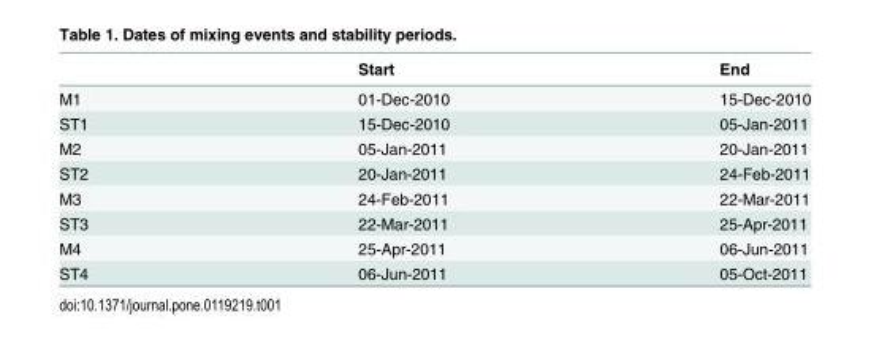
<table><thead><tr><td></td><td>Start</td><td>End</td></tr></thead><tbody><tr><td>M1</td><td>01-Dec-2010</td><td>15-Dec-2010</td></tr><tr><td>ST1</td><td>15-Dec-2010</td><td>05-Jan-2011</td></tr><tr><td>M2</td><td>05-Jan-2011</td><td>20-Jan-2011</td></tr><tr><td>ST2</td><td>20-Jan-2011</td><td>24-Feb-2011</td></tr><tr><td>M3</td><td>24-Feb-2011</td><td>22-Mar-2011</td></tr><tr><td>ST3</td><td>22-Mar-2011</td><td>25-Apr-2011</td></tr><tr><td>M4</td><td>25-Apr-2011</td><td>06-Jun-2011</td></tr><tr><td>ST4</td><td>06-Jun-2011</td><td>05-Oct-2011</td></tr></tbody></table>